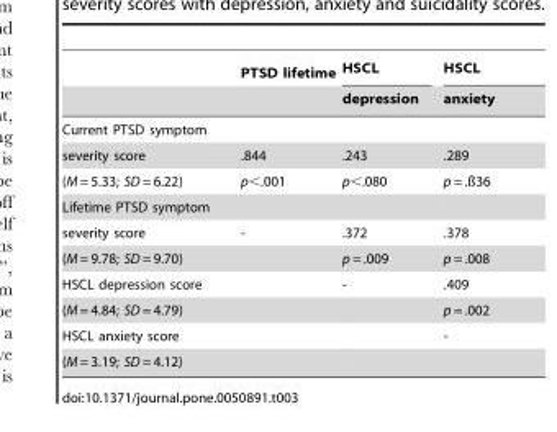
<table><thead><tr><td rowspan="2"></td><td rowspan="2">PTSD lifetime</td><td rowspan="2">HSCL depression</td><td rowspan="2">HSCL anxiety</td></tr><tr></tr></thead><tbody><tr><td colspan="4">Current PTSD symptom</td></tr><tr><td>severity score</td><td>.844</td><td>.243</td><td>.289</td></tr><tr><td>(M = 5.33; SD = 6.22)</td><td>p&lt;.001</td><td>p&lt;.080</td><td>p = .ß36</td></tr><tr><td colspan="4">Lifetime PTSD symptom</td></tr><tr><td>severity score</td><td>-</td><td>.372</td><td>.378</td></tr><tr><td>(M = 9.78; SD = 9.70)</td><td></td><td>p = .009</td><td>p = .008</td></tr><tr><td colspan="2">HSCL depression score</td><td>-</td><td>.409</td></tr><tr><td>(M = 4.84; SD = 4.79)</td><td></td><td></td><td>p = .002</td></tr><tr><td>HSCL anxiety score</td><td></td><td></td><td>-</td></tr><tr><td>(M = 3.19; SD = 4.12)</td><td></td><td></td><td></td></tr></tbody></table>